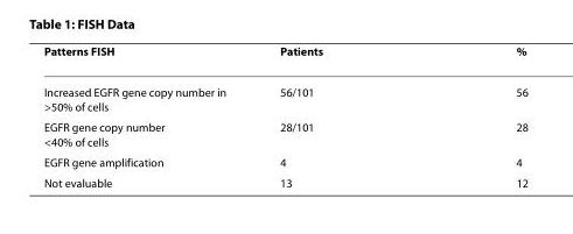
<table><thead><tr><td>Patterns FISH</td><td>Patients</td><td>%</td></tr></thead><tbody><tr><td>Increased EGFR gene copy number in &gt;50% of cells</td><td>56/101</td><td>56</td></tr><tr><td>EGFR gene copy number &lt;40% of cells</td><td>28/101</td><td>28</td></tr><tr><td>EGFR gene amplification</td><td>4</td><td>4</td></tr><tr><td>Not evaluable</td><td>13</td><td>12</td></tr></tbody></table>